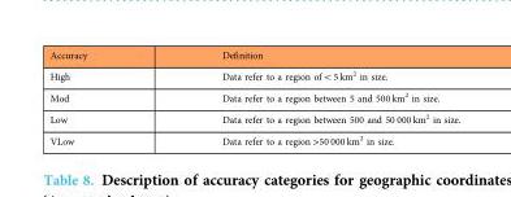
<table><thead><tr><td>Accuracy</td><td>Definition</td></tr></thead><tbody><tr><td>High</td><td>Data refer to a region of&lt;5 km<sup>2</sup> in size.</td></tr><tr><td>Mod</td><td>Data refer to a region between 5 and 500 km<sup>2</sup> in size.</td></tr><tr><td>Low</td><td>Data refer to a region between 500 and 50 000 km<sup>2</sup> in size.</td></tr><tr><td>VLow</td><td>Data refer to a region &gt;50 000 km<sup>2</sup> in size.</td></tr></tbody></table>